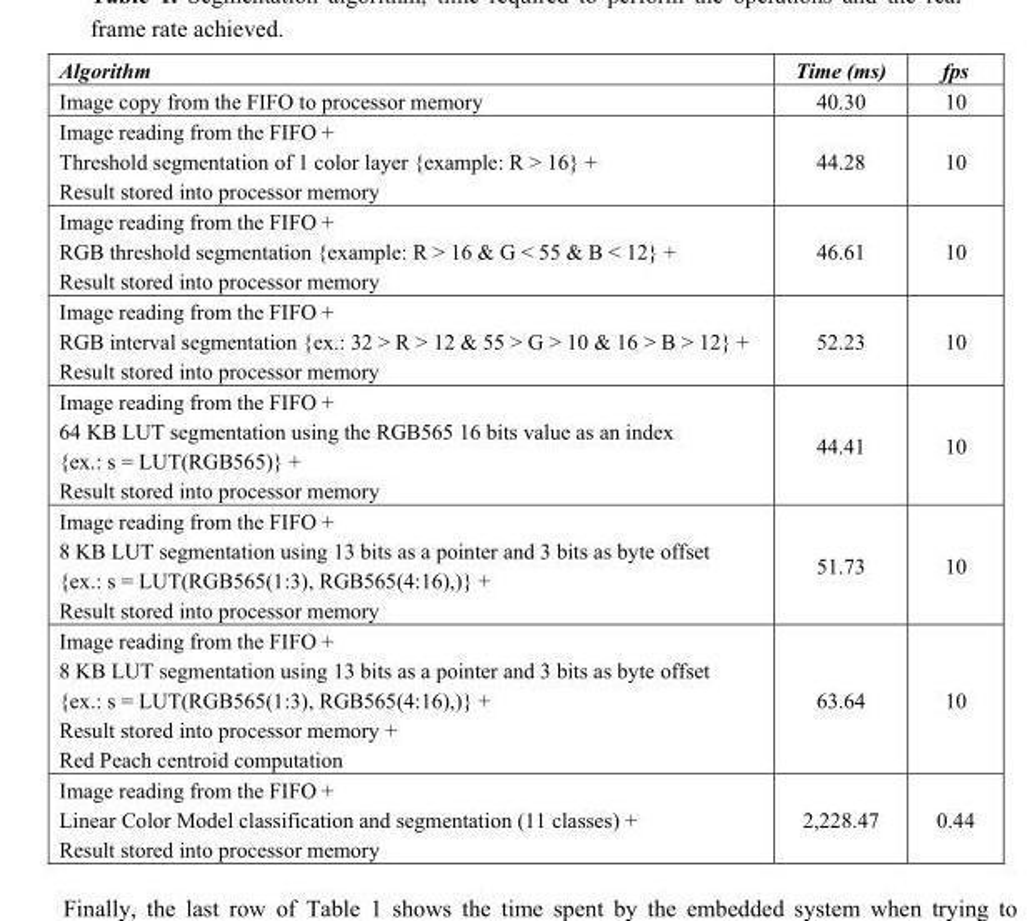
<table><thead><tr><td>Algorithm</td><td>Time (ms)</td><td>fps</td></tr></thead><tbody><tr><td>Image copy from the FIFO to processor memory</td><td>40.30</td><td>10</td></tr><tr><td>Image reading from the FIFO + Threshold segmentation of 1 color layer {example: R &gt; 16} + Result stored into processor memory</td><td>44.28</td><td>10</td></tr><tr><td>Image reading from the FIFO + RGB threshold segmentation {example: R &gt; 16 &amp; G &lt; 55 &amp; B &lt; 12} + Result stored into processor memory</td><td>46.61</td><td>10</td></tr><tr><td>Image reading from the FIFO + RGB interval segmentation {ex.: 32 &gt; R &gt; 12 &amp; 55 &gt; G &gt; 10 &amp; 16 &gt; B &gt; 12} + Result stored into processor memory</td><td>52.23</td><td>10</td></tr><tr><td>Image reading from the FIFO + 64 KB LUT segmentation using the RGB565 16 bits value as an index {ex.: s = LUT(RGB565)} + Result stored into processor memory</td><td>44.41</td><td>10</td></tr><tr><td>Image reading from the FIFO + 8 KB LUT segmentation using 13 bits as a pointer and 3 bits as byte offset {ex.: s = LUT(RGB565(1:3), RGB565(4:16),)} + Result stored into processor memory</td><td>51.73</td><td>10</td></tr><tr><td>Image reading from the FIFO + 8 KB LUT segmentation using 13 bits as a pointer and 3 bits as byte offset {ex.: s = LUT(RGB565(1:3), RGB565(4:16),)} + Result stored into processor memory + Red Peach centroid computation</td><td>63.64</td><td>10</td></tr><tr><td>Image reading from the FIFO + Linear Color Model classification and segmentation (11 classes) + Result stored into processor memory</td><td>2,228.47</td><td>0.44</td></tr></tbody></table>